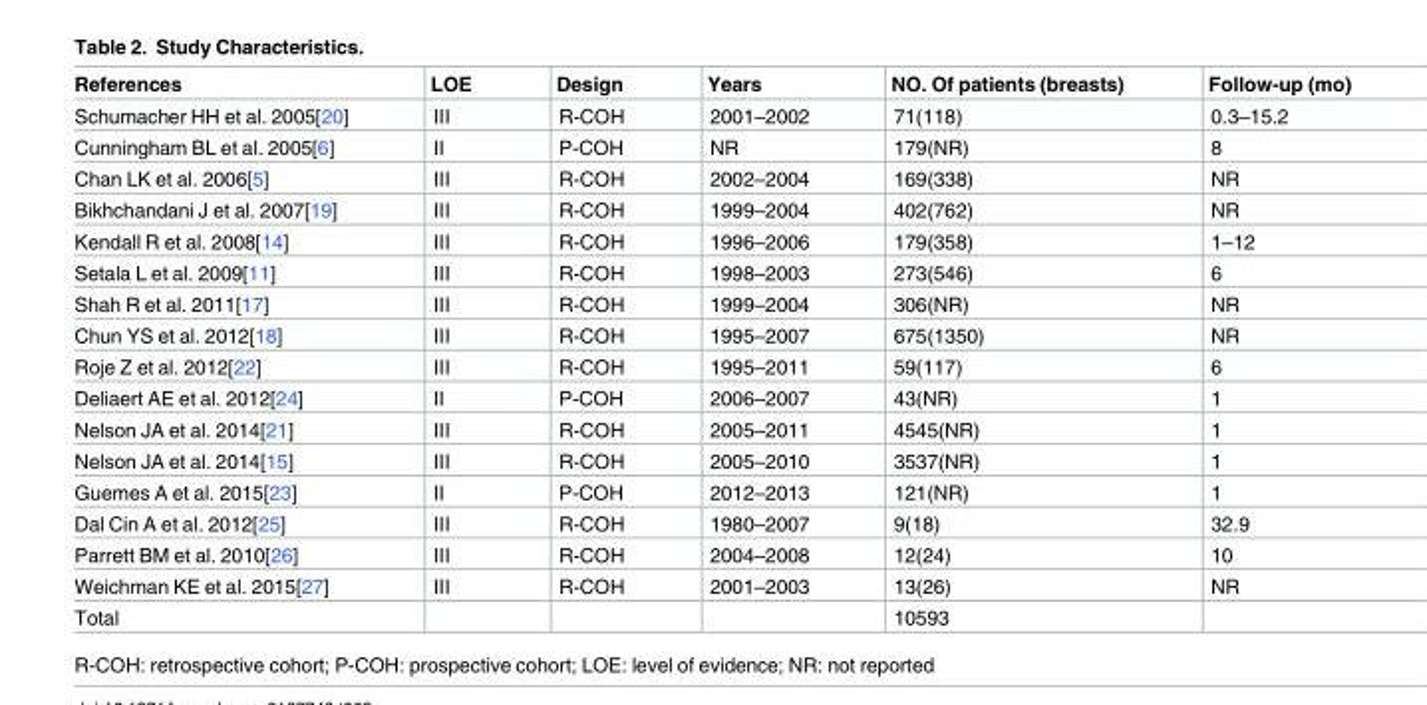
<table><thead><tr><td>References</td><td>LOE</td><td>Design</td><td>Years</td><td>NO. Of patients (breasts)</td><td>Follow-up (mo)</td></tr></thead><tbody><tr><td>Schumacher HH et al. 2005[20]</td><td>III</td><td>R-COH</td><td>2001–2002</td><td>71(118)</td><td>0.3–15.2</td></tr><tr><td>Cunningham BL et al. 2005[6]</td><td>II</td><td>P-COH</td><td>NR</td><td>179(NR)</td><td>8</td></tr><tr><td>Chan LK et al. 2006[5]</td><td>III</td><td>R-COH</td><td>2002–2004</td><td>169(338)</td><td>NR</td></tr><tr><td>Bikhchandani J et al. 2007[19]</td><td>III</td><td>R-COH</td><td>1999–2004</td><td>402(762)</td><td>NR</td></tr><tr><td>Kendall R et al. 2008[14]</td><td>III</td><td>R-COH</td><td>1996–2006</td><td>179(358)</td><td>1–12</td></tr><tr><td>Setala L et al. 2009[11]</td><td>III</td><td>R-COH</td><td>1998–2003</td><td>273(546)</td><td>6</td></tr><tr><td>Shah R et al. 2011[17]</td><td>III</td><td>R-COH</td><td>1999–2004</td><td>306(NR)</td><td>NR</td></tr><tr><td>Chun YS et al. 2012[18]</td><td>III</td><td>R-COH</td><td>1995–2007</td><td>675(1350)</td><td>NR</td></tr><tr><td>Roje Z et al. 2012[22]</td><td>III</td><td>R-COH</td><td>1995–2011</td><td>59(117)</td><td>6</td></tr><tr><td>Deliaert AE et al. 2012[24]</td><td>II</td><td>P-COH</td><td>2006–2007</td><td>43(NR)</td><td>1</td></tr><tr><td>Nelson JA et al. 2014[21]</td><td>III</td><td>R-COH</td><td>2005–2011</td><td>4545(NR)</td><td>1</td></tr><tr><td>Nelson JA et al. 2014[15]</td><td>III</td><td>R-COH</td><td>2005–2010</td><td>3537(NR)</td><td>1</td></tr><tr><td>Guemes A et al. 2015[23]</td><td>II</td><td>P-COH</td><td>2012–2013</td><td>121(NR)</td><td>1</td></tr><tr><td>Dal Cin A et al. 2012[25]</td><td>III</td><td>R-COH</td><td>1980–2007</td><td>9(18)</td><td>32.9</td></tr><tr><td>Parrett BM et al. 2010[26]</td><td>III</td><td>R-COH</td><td>2004–2008</td><td>12(24)</td><td>10</td></tr><tr><td>Weichman KE et al. 2015[27]</td><td>III</td><td>R-COH</td><td>2001–2003</td><td>13(26)</td><td>NR</td></tr><tr><td>Total</td><td></td><td></td><td></td><td>10593</td><td></td></tr></tbody></table>